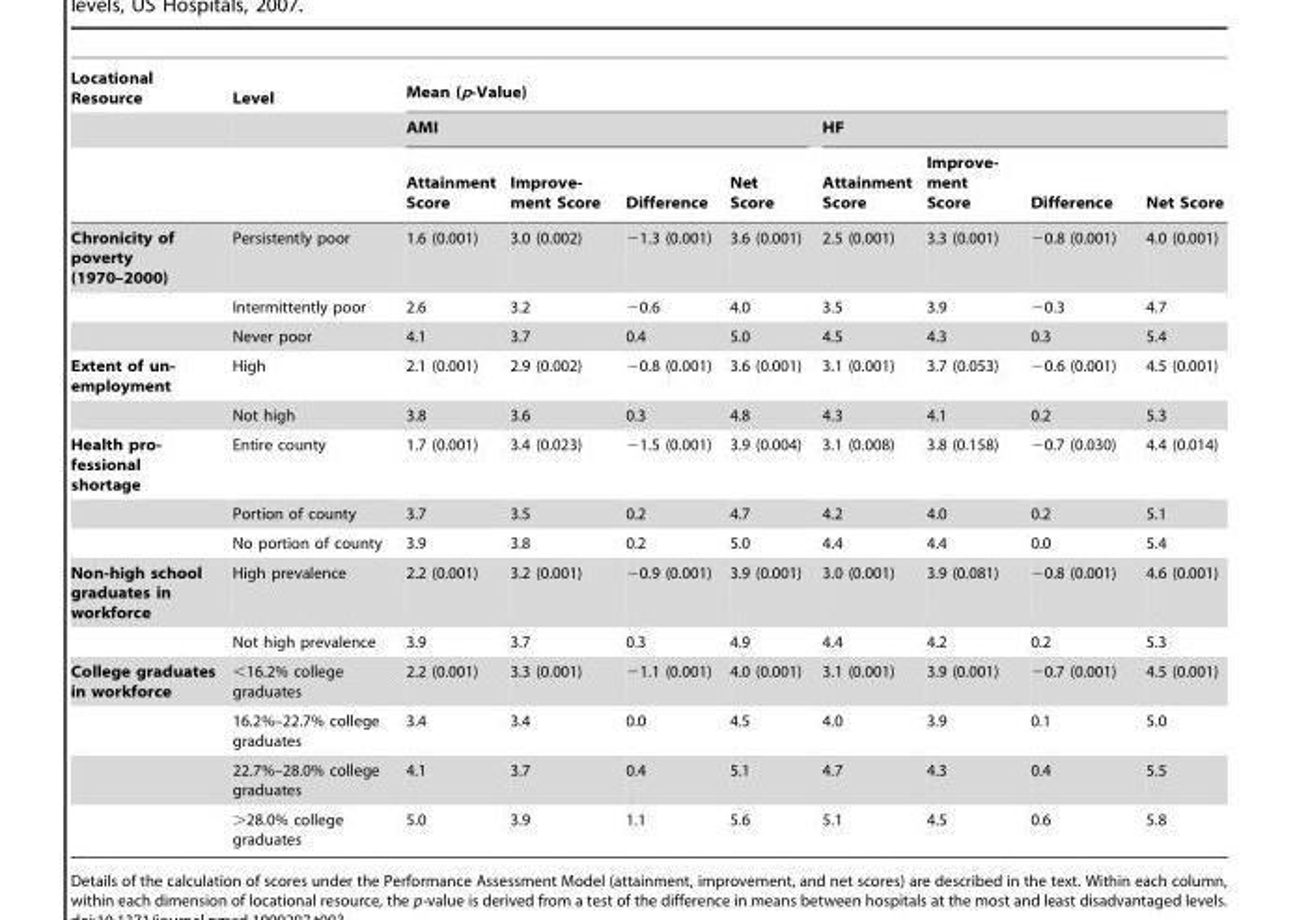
<table><thead><tr><td rowspan="3">Locational Resource</td><td rowspan="3">Level</td><td colspan="8">Mean (p-Value)</td></tr><tr><td colspan="4">AMI</td><td colspan="4">HF</td></tr><tr><td>Attainment Score</td><td>Improve- ment Score</td><td>Difference</td><td>Net Score</td><td>Attainment Score</td><td>Improve- ment Score</td><td>Difference</td><td>Net Score</td></tr></thead><tbody><tr><td rowspan="3">Chronicity of poverty (1970–2000)</td><td>Persistently poor</td><td>1.6 (0.001)</td><td>3.0 (0.002)</td><td>−1.3 (0.001)</td><td>3.6 (0.001)</td><td>2.5 (0.001)</td><td>3.3 (0.001)</td><td>−0.8 (0.001)</td><td>4.0 (0.001)</td></tr><tr><td>Intermittently poor</td><td>2.6</td><td>3.2</td><td>−0.6</td><td>4.0</td><td>3.5</td><td>3.9</td><td>−0.3</td><td>4.7</td></tr><tr><td>Never poor</td><td>4.1</td><td>3.7</td><td>0.4</td><td>5.0</td><td>4.5</td><td>4.3</td><td>0.3</td><td>5.4</td></tr><tr><td rowspan="2">Extent of un- employment</td><td>High</td><td>2.1 (0.001)</td><td>2.9 (0.002)</td><td>−0.8 (0.001)</td><td>3.6 (0.001)</td><td>3.1 (0.001)</td><td>3.7 (0.053)</td><td>−0.6 (0.001)</td><td>4.5 (0.001)</td></tr><tr><td>Not high</td><td>3.8</td><td>3.6</td><td>0.3</td><td>4.8</td><td>4.3</td><td>4.1</td><td>0.2</td><td>5.3</td></tr><tr><td rowspan="3">Health pro- fessional shortage</td><td>Entire county</td><td>1.7 (0.001)</td><td>3.4 (0.023)</td><td>−1.5 (0.001)</td><td>3.9 (0.004)</td><td>3.1 (0.008)</td><td>3.8 (0.158)</td><td>−0.7 (0.030)</td><td>4.4 (0.014)</td></tr><tr><td>Portion of county</td><td>3.7</td><td>3.5</td><td>0.2</td><td>4.7</td><td>4.2</td><td>4.0</td><td>0.2</td><td>5.1</td></tr><tr><td>No portion of county</td><td>3.9</td><td>3.8</td><td>0.2</td><td>5.0</td><td>4.4</td><td>4.4</td><td>0.0</td><td>5.4</td></tr><tr><td rowspan="2">Non-high school graduates in workforce</td><td>High prevalence</td><td>2.2 (0.001)</td><td>3.2 (0.001)</td><td>−0.9 (0.001)</td><td>3.9 (0.001)</td><td>3.0 (0.001)</td><td>3.9 (0.081)</td><td>−0.8 (0.001)</td><td>4.6 (0.001)</td></tr><tr><td>Not high prevalence</td><td>3.9</td><td>3.7</td><td>0.3</td><td>4.9</td><td>4.4</td><td>4.2</td><td>0.2</td><td>5.3</td></tr><tr><td rowspan="4">College graduates in workforce</td><td>&lt;16.2% college graduates</td><td>2.2 (0.001)</td><td>3.3 (0.001)</td><td>−1.1 (0.001)</td><td>4.0 (0.001)</td><td>3.1 (0.001)</td><td>3.9 (0.001)</td><td>−0.7 (0.001)</td><td>4.5 (0.001)</td></tr><tr><td>16.2%–22.7% college graduates</td><td>3.4</td><td>3.4</td><td>0.0</td><td>4.5</td><td>4.0</td><td>3.9</td><td>0.1</td><td>5.0</td></tr><tr><td>22.7%–28.0% college graduates</td><td>4.1</td><td>3.7</td><td>0.4</td><td>5.1</td><td>4.7</td><td>4.3</td><td>0.4</td><td>5.5</td></tr><tr><td>&gt;28.0% college graduates</td><td>5.0</td><td>3.9</td><td>1.1</td><td>5.6</td><td>5.1</td><td>4.5</td><td>0.6</td><td>5.8</td></tr></tbody></table>